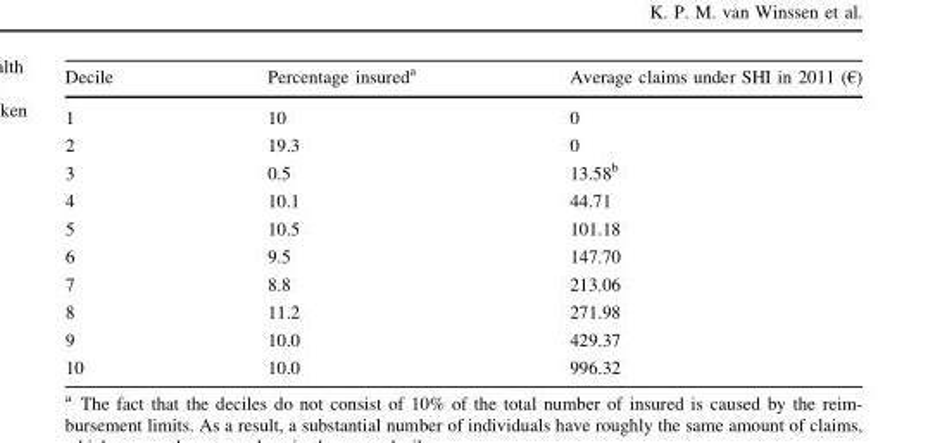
<table><thead><tr><td>Decile</td><td>Percentage insured<sup>a</sup></td><td>Average claims under SHI in 2011 (€)</td></tr></thead><tbody><tr><td>1</td><td>10</td><td>0</td></tr><tr><td>2</td><td>19.3</td><td>0</td></tr><tr><td>3</td><td>0.5</td><td>13.58<sup>b</sup></td></tr><tr><td>4</td><td>10.1</td><td>44.71</td></tr><tr><td>5</td><td>10.5</td><td>101.18</td></tr><tr><td>6</td><td>9.5</td><td>147.70</td></tr><tr><td>7</td><td>8.8</td><td>213.06</td></tr><tr><td>8</td><td>11.2</td><td>271.98</td></tr><tr><td>9</td><td>10.0</td><td>429.37</td></tr><tr><td>10</td><td>10.0</td><td>996.32</td></tr></tbody></table>